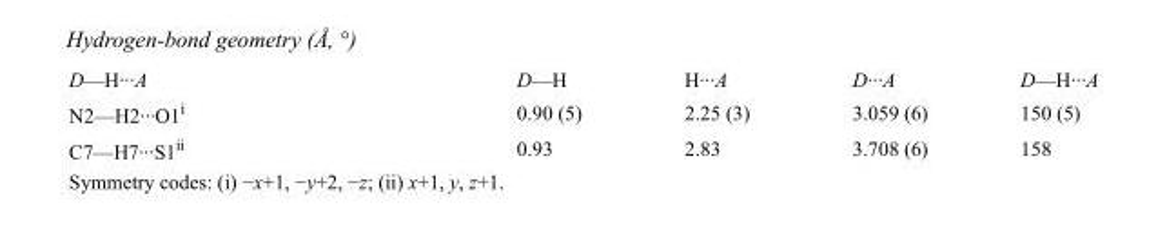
<table><tbody><tr><td>D—H···A</td><td>D—H</td><td>H···A</td><td>D···A</td><td>D—H···A</td></tr><tr><td>N2—H2···O1<sup>i</sup></td><td>0.90 (5)</td><td>2.25 (3)</td><td>3.059 (6)</td><td>150 (5)</td></tr><tr><td>C7—H7···S1<sup>ii</sup></td><td>0.93</td><td>2.83</td><td>3.708 (6)</td><td>158</td></tr></tbody></table>